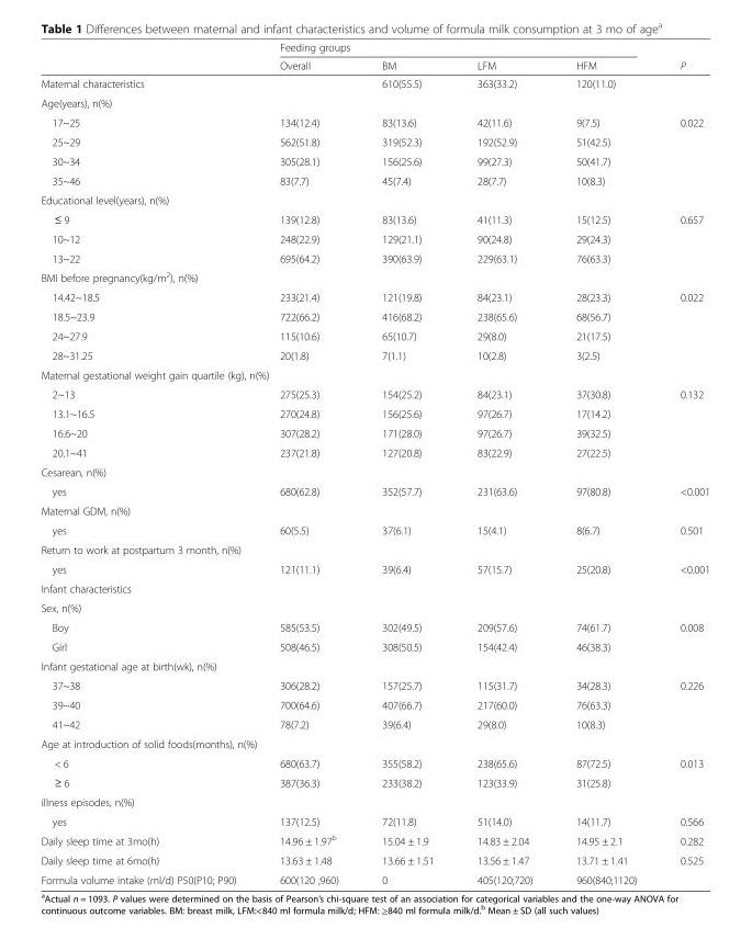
<table><thead><tr><td rowspan="2"></td><td colspan="4">Feeding groups</td><td rowspan="2">P</td></tr><tr><td>Overall</td><td>BM</td><td>LFM</td><td>HFM</td></tr></thead><tbody><tr><td>Maternal characteristics</td><td></td><td>610(55.5)</td><td>363(33.2)</td><td>120(11.0)</td><td></td></tr><tr><td colspan="6">Age(years), n(%)</td></tr><tr><td>17~25</td><td>134(12.4)</td><td>83(13.6)</td><td>42(11.6)</td><td>9(7.5)</td><td>0.022</td></tr><tr><td>25~29</td><td>562(51.8)</td><td>319(52.3)</td><td>192(52.9)</td><td>51(42.5)</td><td></td></tr><tr><td>30~34</td><td>305(28.1)</td><td>156(25.6)</td><td>99(27.3)</td><td>50(41.7)</td><td></td></tr><tr><td>35~46</td><td>83(7.7)</td><td>45(7.4)</td><td>28(7.7)</td><td>10(8.3)</td><td></td></tr><tr><td colspan="6">Educational level(years), n(%)</td></tr><tr><td>≤ 9</td><td>139(12.8)</td><td>83(13.6)</td><td>41(11.3)</td><td>15(12.5)</td><td>0.657</td></tr><tr><td>10~12</td><td>248(22.9)</td><td>129(21.1)</td><td>90(24.8)</td><td>29(24.3)</td><td></td></tr><tr><td>13~22</td><td>695(64.2)</td><td>390(63.9)</td><td>229(63.1)</td><td>76(63.3)</td><td></td></tr><tr><td colspan="6">BMI before pregnancy(kg/m<sup>2</sup>), n(%)</td></tr><tr><td>14.42~18.5</td><td>233(21.4)</td><td>121(19.8)</td><td>84(23.1)</td><td>28(23.3)</td><td>0.022</td></tr><tr><td>18.5~23.9</td><td>722(66.2)</td><td>416(68.2)</td><td>238(65.6)</td><td>68(56.7)</td><td></td></tr><tr><td>24~27.9</td><td>115(10.6)</td><td>65(10.7)</td><td>29(8.0)</td><td>21(17.5)</td><td></td></tr><tr><td>28~31.25</td><td>20(1.8)</td><td>7(1.1)</td><td>10(2.8)</td><td>3(2.5)</td><td></td></tr><tr><td colspan="6">Maternal gestational weight gain quartile (kg), n(%)</td></tr><tr><td>2~13</td><td>275(25.3)</td><td>154(25.2)</td><td>84(23.1)</td><td>37(30.8)</td><td>0.132</td></tr><tr><td>13.1~16.5</td><td>270(24.8)</td><td>156(25.6)</td><td>97(26.7)</td><td>17(14.2)</td><td></td></tr><tr><td>16.6~20</td><td>307(28.2)</td><td>171(28.0)</td><td>97(26.7)</td><td>39(32.5)</td><td></td></tr><tr><td>20.1~41</td><td>237(21.8)</td><td>127(20.8)</td><td>83(22.9)</td><td>27(22.5)</td><td></td></tr><tr><td colspan="6">Cesarean, n(%)</td></tr><tr><td>yes</td><td>680(62.8)</td><td>352(57.7)</td><td>231(63.6)</td><td>97(80.8)</td><td>&lt;0.001</td></tr><tr><td colspan="6">Maternal GDM, n(%)</td></tr><tr><td>yes</td><td>60(5.5)</td><td>37(6.1)</td><td>15(4.1)</td><td>8(6.7)</td><td>0.501</td></tr><tr><td colspan="6">Return to work at postpartum 3 month, n(%)</td></tr><tr><td>yes</td><td>121(11.1)</td><td>39(6.4)</td><td>57(15.7)</td><td>25(20.8)</td><td>&lt;0.001</td></tr><tr><td colspan="6">Infant characteristics</td></tr><tr><td colspan="6">Sex, n(%)</td></tr><tr><td>Boy</td><td>585(53.5)</td><td>302(49.5)</td><td>209(57.6)</td><td>74(61.7)</td><td>0.008</td></tr><tr><td>Girl</td><td>508(46.5)</td><td>308(50.5)</td><td>154(42.4)</td><td>46(38.3)</td><td></td></tr><tr><td colspan="6">Infant gestational age at birth(wk), n(%)</td></tr><tr><td>37~38</td><td>306(28.2)</td><td>157(25.7)</td><td>115(31.7)</td><td>34(28.3)</td><td>0.226</td></tr><tr><td>39~40</td><td>700(64.6)</td><td>407(66.7)</td><td>217(60.0)</td><td>76(63.3)</td><td></td></tr><tr><td>41~42</td><td>78(7.2)</td><td>39(6.4)</td><td>29(8.0)</td><td>10(8.3)</td><td></td></tr><tr><td colspan="6">Age at introduction of solid foods(months), n(%)</td></tr><tr><td>&lt; 6</td><td>680(63.7)</td><td>355(58.2)</td><td>238(65.6)</td><td>87(72.5)</td><td>0.013</td></tr><tr><td>≥ 6</td><td>387(36.3)</td><td>233(38.2)</td><td>123(33.9)</td><td>31(25.8)</td><td></td></tr><tr><td colspan="6">illness episodes, n(%)</td></tr><tr><td>yes</td><td>137(12.5)</td><td>72(11.8)</td><td>51(14.0)</td><td>14(11.7)</td><td>0.566</td></tr><tr><td>Daily sleep time at 3mo(h)</td><td>14.96 ± 1.97<sup>b</sup></td><td>15.04 ± 1.9</td><td>14.83 ± 2.04</td><td>14.95 ± 2.1</td><td>0.282</td></tr><tr><td>Daily sleep time at 6mo(h)</td><td>13.63 ± 1.48</td><td>13.66 ± 1.51</td><td>13.56 ± 1.47</td><td>13.71 ± 1.41</td><td>0.525</td></tr><tr><td>Formula volume intake (ml/d) P50(P10; P90)</td><td>600(120 ;960)</td><td>0</td><td>405(120;720)</td><td>960(840;1120)</td><td></td></tr></tbody></table>